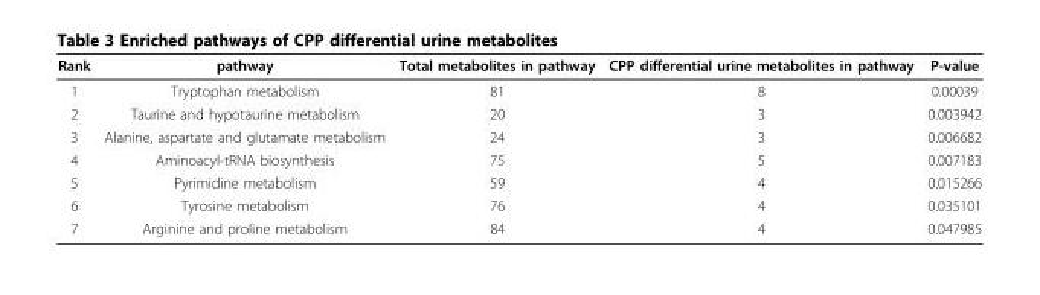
<table><thead><tr><td>Rank</td><td>pathway</td><td>Total metabolites in pathway</td><td>CPP differential urine metabolites in pathway</td><td>P-value</td></tr></thead><tbody><tr><td>1</td><td>Tryptophan metabolism</td><td>81</td><td>8</td><td>0.00039</td></tr><tr><td>2</td><td>Taurine and hypotaurine metabolism</td><td>20</td><td>3</td><td>0.003942</td></tr><tr><td>3</td><td>Alanine, aspartate and glutamate metabolism</td><td>24</td><td>3</td><td>0.006682</td></tr><tr><td>4</td><td>Aminoacyl-tRNA biosynthesis</td><td>75</td><td>5</td><td>0.007183</td></tr><tr><td>5</td><td>Pyrimidine metabolism</td><td>59</td><td>4</td><td>0.015266</td></tr><tr><td>6</td><td>Tyrosine metabolism</td><td>76</td><td>4</td><td>0.035101</td></tr><tr><td>7</td><td>Arginine and proline metabolism</td><td>84</td><td>4</td><td>0.047985</td></tr></tbody></table>